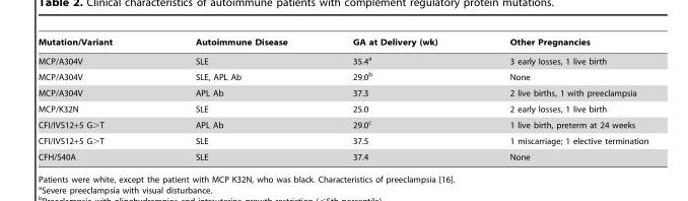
<table><thead><tr><td>Mutation/Variant</td><td>Autoimmune Disease</td><td>GA at Delivery (wk)</td><td>Other Pregnancies</td></tr></thead><tbody><tr><td>MCP/A304V</td><td>SLE</td><td>35.4<sup>a</sup></td><td>3 early losses, 1 live birth</td></tr><tr><td>MCP/A304V</td><td>SLE, APL Ab</td><td>29.0<sup>b</sup></td><td>None</td></tr><tr><td>MCP/A304V</td><td>APL Ab</td><td>37.3</td><td>2 live births, 1 with preeclampsia</td></tr><tr><td>MCP/K32N</td><td>SLE</td><td>25.0</td><td>2 early losses, 1 live birth</td></tr><tr><td>CFI/IVS12+5 G&gt;T</td><td>APL Ab</td><td>29.0<sup>c</sup></td><td>1 live birth, preterm at 24 weeks</td></tr><tr><td>CFI/IVS12+5 G&gt;T</td><td>SLE</td><td>37.5</td><td>1 miscarriage; 1 elective termination</td></tr><tr><td>CFH/S40A</td><td>SLE</td><td>37.4</td><td>None</td></tr></tbody></table>